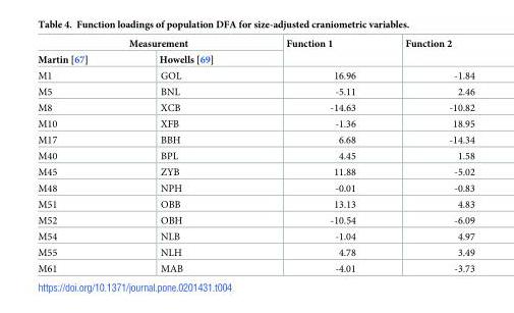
<table><thead><tr><td colspan="2">Measurement</td><td rowspan="2">Function 1</td><td rowspan="2">Function 2</td></tr><tr><td>Martin [67]</td><td>Howells [69]</td></tr></thead><tbody><tr><td>M1</td><td>GOL</td><td>16.96</td><td>-1.84</td></tr><tr><td>M5</td><td>BNL</td><td>-5.11</td><td>2.46</td></tr><tr><td>M8</td><td>XCB</td><td>-14.63</td><td>-10.82</td></tr><tr><td>M10</td><td>XFB</td><td>-1.36</td><td>18.95</td></tr><tr><td>M17</td><td>BBH</td><td>6.68</td><td>-14.34</td></tr><tr><td>M40</td><td>BPL</td><td>4.45</td><td>1.58</td></tr><tr><td>M45</td><td>ZYB</td><td>11.88</td><td>-5.02</td></tr><tr><td>M48</td><td>NPH</td><td>-0.01</td><td>-0.83</td></tr><tr><td>M51</td><td>OBB</td><td>13.13</td><td>4.83</td></tr><tr><td>M52</td><td>OBH</td><td>-10.54</td><td>-6.09</td></tr><tr><td>M54</td><td>NLB</td><td>-1.04</td><td>4.97</td></tr><tr><td>M55</td><td>NLH</td><td>4.78</td><td>3.49</td></tr><tr><td>M61</td><td>MAB</td><td>-4.01</td><td>-3.73</td></tr></tbody></table>